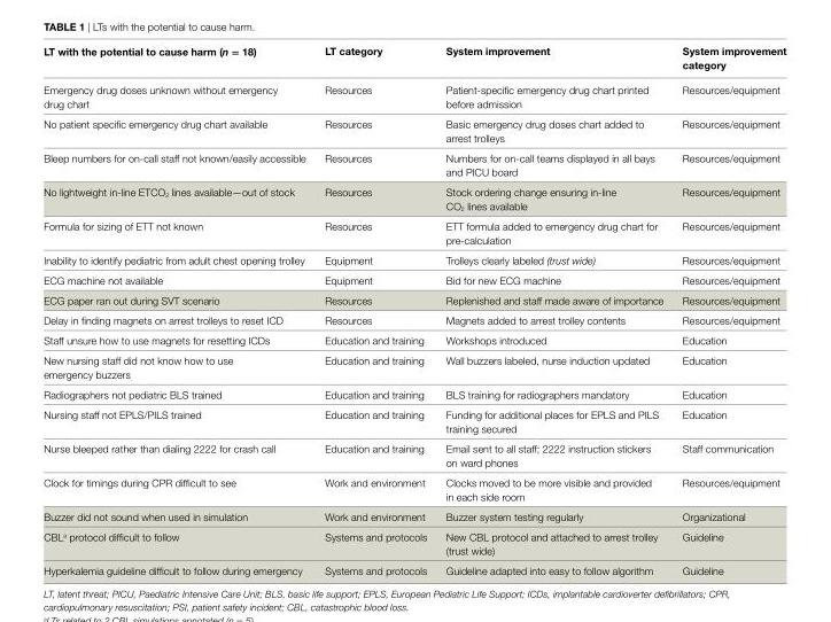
<table><thead><tr><td>lT with the potential to cause harm (n = 18)</td><td>lT category</td><td>system improvement</td><td>system improvement category</td></tr></thead><tbody><tr><td>Emergency drug doses unknown without emergency drug chart</td><td>Resources</td><td>Patient-specific emergency drug chart printed before admission</td><td>Resources/equipment</td></tr><tr><td>No patient specific emergency drug chart available</td><td>Resources</td><td>Basic emergency drug doses chart added to arrest trolleys</td><td>Resources/equipment</td></tr><tr><td>Bleep numbers for on-call staff not known/easily accessible</td><td>Resources</td><td>Numbers for on-call teams displayed in all bays and PICU board</td><td>Resources/equipment</td></tr><tr><td>No lightweight in-line ETCO<sub>2</sub> lines available—out of stock</td><td>Resources</td><td>Stock ordering change ensuring in-line CO<sub>2</sub> lines available</td><td>Resources/equipment</td></tr><tr><td>Formula for sizing of ETT not known</td><td>Resources</td><td>ETT formula added to emergency drug chart for pre-calculation</td><td>Resources/equipment</td></tr><tr><td>Inability to identify pediatric from adult chest opening trolley</td><td>Equipment</td><td>Trolleys clearly labeled (trust wide)</td><td>Resources/equipment</td></tr><tr><td>ECG machine not available</td><td>Equipment</td><td>Bid for new ECG machine</td><td>Resources/equipment</td></tr><tr><td>ECG paper ran out during SVT scenario</td><td>Resources</td><td>Replenished and staff made aware of importance</td><td>Resources/equipment</td></tr><tr><td>Delay in finding magnets on arrest trolleys to reset ICD</td><td>Resources</td><td>Magnets added to arrest trolley contents</td><td>Resources/equipment</td></tr><tr><td>Staff unsure how to use magnets for resetting ICDs</td><td>Education and training</td><td>Workshops introduced</td><td>Education</td></tr><tr><td>New nursing staff did not know how to use emergency buzzers</td><td>Education and training</td><td>Wall buzzers labeled, nurse induction updated</td><td>Education</td></tr><tr><td>Radiographers not pediatric BLS trained</td><td>Education and training</td><td>BLS training for radiographers mandatory</td><td>Education</td></tr><tr><td>Nursing staff not EPLS/PILS trained</td><td>Education and training</td><td>Funding for additional places for EPLS and PILS training secured</td><td>Education</td></tr><tr><td>Nurse bleeped rather than dialing 2222 for crash call</td><td>Education and training</td><td>Email sent to all staff; 2222 instruction stickers on ward phones</td><td>Staff communication</td></tr><tr><td>Clock for timings during CPR difficult to see</td><td>Work and environment</td><td>Clocks moved to be more visible and provided in each side room</td><td>Resources/equipment</td></tr><tr><td>Buzzer did not sound when used in simulation</td><td>Work and environment</td><td>Buzzer system testing regularly</td><td>Organizational</td></tr><tr><td>CBL<sup>a</sup> protocol difficult to follow</td><td>Systems and protocols</td><td>New CBL protocol and attached to arrest trolley (trust wide)</td><td>Guideline</td></tr><tr><td>Hyperkalemia guideline difficult to follow during emergency</td><td>Systems and protocols</td><td>Guideline adapted into easy to follow algorithm</td><td>Guideline</td></tr></tbody></table>